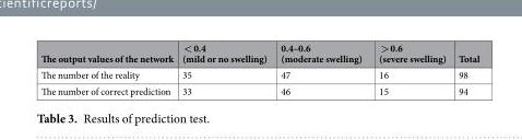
<table><thead><tr><td>The output values of the network</td><td>&lt; 0.4 (mild or no swelling)</td><td>0.4–0.6 (moderate swelling)</td><td>&gt; 0.6 (severe swelling)</td><td>Total</td></tr></thead><tbody><tr><td>The number of the reality</td><td>35</td><td>47</td><td>16</td><td>98</td></tr><tr><td>The number of correct prediction</td><td>33</td><td>46</td><td>15</td><td>94</td></tr></tbody></table>